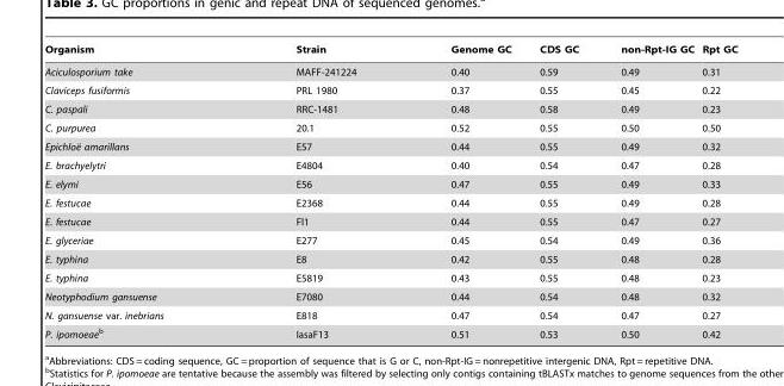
<table><thead><tr><td>Organism</td><td>Strain</td><td>Genome GC</td><td>CDS GC</td><td>non-Rpt-IG GC</td><td>Rpt GC</td></tr></thead><tbody><tr><td>Aciculosporium take</td><td>MAFF-241224</td><td>0.40</td><td>0.59</td><td>0.49</td><td>0.31</td></tr><tr><td>Claviceps fusiformis</td><td>PRL 1980</td><td>0.37</td><td>0.55</td><td>0.45</td><td>0.22</td></tr><tr><td>C. paspali</td><td>RRC-1481</td><td>0.48</td><td>0.58</td><td>0.49</td><td>0.23</td></tr><tr><td>C. purpurea</td><td>20.1</td><td>0.52</td><td>0.55</td><td>0.50</td><td>0.50</td></tr><tr><td>Epichloe¨ amarillans</td><td>E57</td><td>0.44</td><td>0.55</td><td>0.49</td><td>0.32</td></tr><tr><td>E. brachyelytri</td><td>E4804</td><td>0.40</td><td>0.54</td><td>0.47</td><td>0.28</td></tr><tr><td>E. elymi</td><td>E56</td><td>0.47</td><td>0.55</td><td>0.49</td><td>0.33</td></tr><tr><td>E. festucae</td><td>E2368</td><td>0.44</td><td>0.55</td><td>0.49</td><td>0.28</td></tr><tr><td>E. festucae</td><td>Fl1</td><td>0.44</td><td>0.55</td><td>0.47</td><td>0.27</td></tr><tr><td>E. glyceriae</td><td>E277</td><td>0.45</td><td>0.54</td><td>0.49</td><td>0.36</td></tr><tr><td>E. typhina</td><td>E8</td><td>0.42</td><td>0.55</td><td>0.48</td><td>0.28</td></tr><tr><td>E. typhina</td><td>E5819</td><td>0.43</td><td>0.55</td><td>0.48</td><td>0.23</td></tr><tr><td>Neotyphodium gansuense</td><td>E7080</td><td>0.44</td><td>0.54</td><td>0.48</td><td>0.32</td></tr><tr><td>N. gansuense var. inebrians</td><td>E818</td><td>0.47</td><td>0.54</td><td>0.47</td><td>0.27</td></tr><tr><td>P. ipomoeaeb</td><td>IasaF13</td><td>0.51</td><td>0.53</td><td>0.50</td><td>0.42</td></tr></tbody></table>